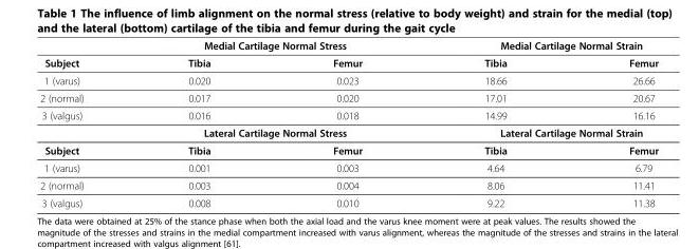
<table><thead><tr><td rowspan="2">Subject</td><td colspan="2">Medial Cartilage Normal Stress</td><td colspan="2">Medial Cartilage Normal Strain</td></tr><tr><td>Tibia</td><td>Femur</td><td>Tibia</td><td>Femur</td></tr></thead><tbody><tr><td>1 (varus)</td><td>0.020</td><td>0.023</td><td>18.66</td><td>26.66</td></tr><tr><td>2 (normal)</td><td>0.017</td><td>0.020</td><td>17.01</td><td>20.67</td></tr><tr><td rowspan="2">3 (valgus)</td><td>0.016</td><td>0.018</td><td>14.99</td><td>16.16</td></tr><tr><td colspan="2">Lateral Cartilage Normal Stress</td><td colspan="2">Lateral Cartilage Normal Strain</td></tr><tr><td>Subject</td><td>Tibia</td><td>Femur</td><td>Tibia</td><td>Femur</td></tr><tr><td>1 (varus)</td><td>0.001</td><td>0.003</td><td>4.64</td><td>6.79</td></tr><tr><td>2 (normal)</td><td>0.003</td><td>0.004</td><td>8.06</td><td>11.41</td></tr><tr><td>3 (valgus)</td><td>0.008</td><td>0.010</td><td>9.22</td><td>11.38</td></tr></tbody></table>